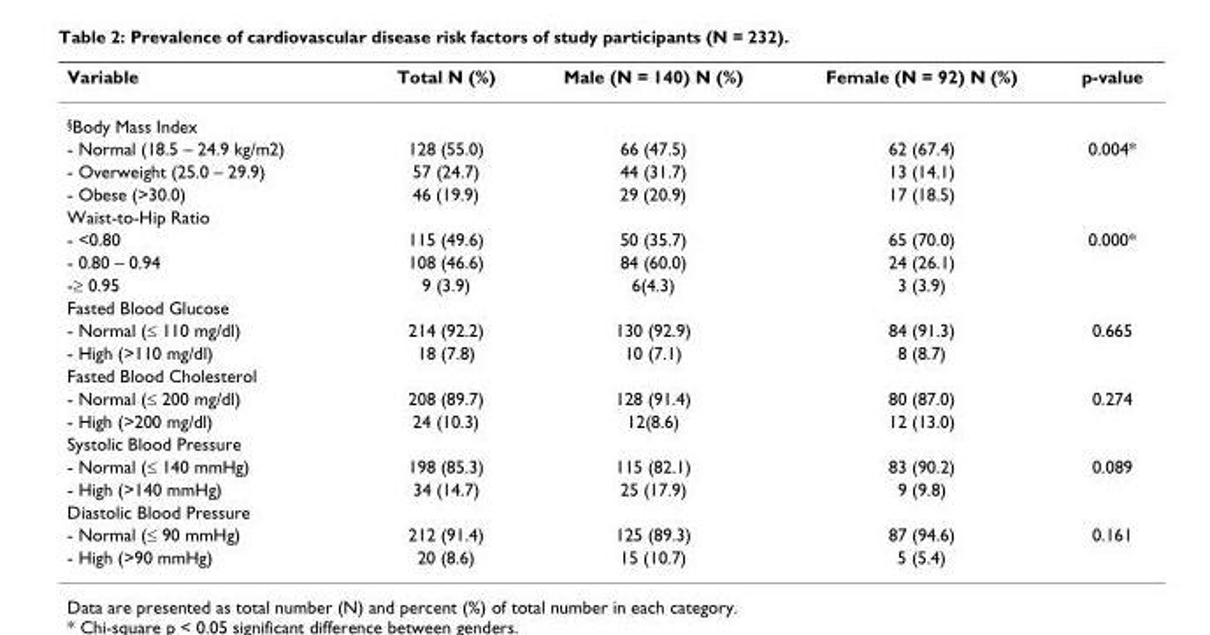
<table><thead><tr><td>Variable</td><td>Total N (%)</td><td>Male (N = 140) N (%)</td><td>Female (N = 92) N (%)</td><td>p-value</td></tr></thead><tbody><tr><td colspan="5"><sup>§</sup>Body Mass Index</td></tr><tr><td>- Normal (18.5 – 24.9 kg/m2)</td><td>128 (55.0)</td><td>66 (47.5)</td><td>62 (67.4)</td><td>0.004*</td></tr><tr><td>- Overweight (25.0 – 29.9)</td><td>57 (24.7)</td><td>44 (31.7)</td><td>13 (14.1)</td><td></td></tr><tr><td>- Obese (&gt;30.0)</td><td>46 (19.9)</td><td>29 (20.9)</td><td>17 (18.5)</td><td></td></tr><tr><td colspan="5">Waist-to-Hip Ratio</td></tr><tr><td>- &lt;0.80</td><td>115 (49.6)</td><td>50 (35.7)</td><td>65 (70.0)</td><td>0.000*</td></tr><tr><td>- 0.80 – 0.94</td><td>108 (46.6)</td><td>84 (60.0)</td><td>24 (26.1)</td><td></td></tr><tr><td>-≥ 0.95</td><td>9 (3.9)</td><td>6(4.3)</td><td>3 (3.9)</td><td></td></tr><tr><td colspan="5">Fasted Blood Glucose</td></tr><tr><td>- Normal (≤ 110 mg/dl)</td><td>214 (92.2)</td><td>130 (92.9)</td><td>84 (91.3)</td><td>0.665</td></tr><tr><td>- High (&gt;110 mg/dl)</td><td>18 (7.8)</td><td>10 (7.1)</td><td>8 (8.7)</td><td></td></tr><tr><td colspan="5">Fasted Blood Cholesterol</td></tr><tr><td>- Normal (≤ 200 mg/dl)</td><td>208 (89.7)</td><td>128 (91.4)</td><td>80 (87.0)</td><td>0.274</td></tr><tr><td>- High (&gt;200 mg/dl)</td><td>24 (10.3)</td><td>12(8.6)</td><td>12 (13.0)</td><td></td></tr><tr><td colspan="5">Systolic Blood Pressure</td></tr><tr><td>- Normal (≤ 140 mmHg)</td><td>198 (85.3)</td><td>115 (82.1)</td><td>83 (90.2)</td><td>0.089</td></tr><tr><td>- High (&gt;140 mmHg)</td><td>34 (14.7)</td><td>25 (17.9)</td><td>9 (9.8)</td><td></td></tr><tr><td colspan="5">Diastolic Blood Pressure</td></tr><tr><td>- Normal (≤ 90 mmHg)</td><td>212 (91.4)</td><td>125 (89.3)</td><td>87 (94.6)</td><td>0.161</td></tr><tr><td>- High (&gt;90 mmHg)</td><td>20 (8.6)</td><td>15 (10.7)</td><td>5 (5.4)</td><td></td></tr></tbody></table>